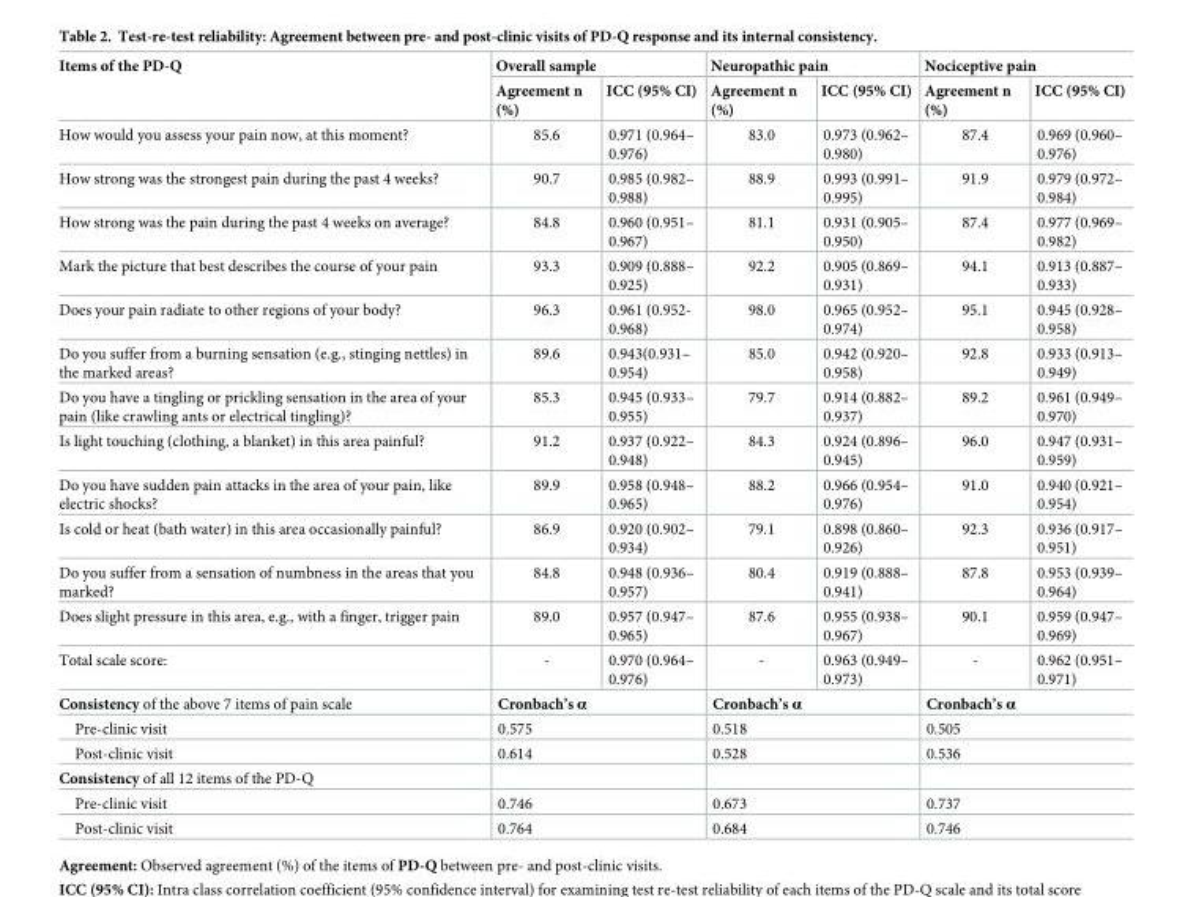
<table><thead><tr><td rowspan="2">Items of the PD-Q</td><td colspan="2">Overall sample</td><td colspan="2">Neuropathic pain</td><td colspan="2">Nociceptive pain</td></tr><tr><td>Agreement n (%)</td><td>ICC (95% CI)</td><td>Agreement n (%)</td><td>ICC (95% CI)</td><td>Agreement n (%)</td><td>ICC (95% CI)</td></tr></thead><tbody><tr><td>How would you assess your pain now, at this moment?</td><td>85.6</td><td>0.971 (0.964– 0.976)</td><td>83.0</td><td>0.973 (0.962– 0.980)</td><td>87.4</td><td>0.969 (0.960– 0.976)</td></tr><tr><td>How strong was the strongest pain during the past 4 weeks?</td><td>90.7</td><td>0.985 (0.982– 0.988)</td><td>88.9</td><td>0.993 (0.991– 0.995)</td><td>91.9</td><td>0.979 (0.972– 0.984)</td></tr><tr><td>How strong was the pain during the past 4 weeks on average?</td><td>84.8</td><td>0.960 (0.951– 0.967)</td><td>81.1</td><td>0.931 (0.905– 0.950)</td><td>87.4</td><td>0.977 (0.969– 0.982)</td></tr><tr><td>Mark the picture that best describes the course of your pain</td><td>93.3</td><td>0.909 (0.888– 0.925)</td><td>92.2</td><td>0.905 (0.869– 0.931)</td><td>94.1</td><td>0.913 (0.887– 0.933)</td></tr><tr><td>Does your pain radiate to other regions of your body?</td><td>96.3</td><td>0.961 (0.952- 0.968)</td><td>98.0</td><td>0.965 (0.952– 0.974)</td><td>95.1</td><td>0.945 (0.928– 0.958)</td></tr><tr><td>Do you suffer from a burning sensation (e.g., stinging nettles) in the marked areas?</td><td>89.6</td><td>0.943(0.931– 0.954)</td><td>85.0</td><td>0.942 (0.920– 0.958)</td><td>92.8</td><td>0.933 (0.913– 0.949)</td></tr><tr><td>Do you have a tingling or prickling sensation in the area of your pain (like crawling ants or electrical tingling)?</td><td>85.3</td><td>0.945 (0.933– 0.955)</td><td>79.7</td><td>0.914 (0.882– 0.937)</td><td>89.2</td><td>0.961 (0.949– 0.970)</td></tr><tr><td>Is light touching (clothing, a blanket) in this area painful?</td><td>91.2</td><td>0.937 (0.922– 0.948)</td><td>84.3</td><td>0.924 (0.896– 0.945)</td><td>96.0</td><td>0.947 (0.931– 0.959)</td></tr><tr><td>Do you have sudden pain attacks in the area of your pain, like electric shocks?</td><td>89.9</td><td>0.958 (0.948– 0.965)</td><td>88.2</td><td>0.966 (0.954– 0.976)</td><td>91.0</td><td>0.940 (0.921– 0.954)</td></tr><tr><td>Is cold or heat (bath water) in this area occasionally painful?</td><td>86.9</td><td>0.920 (0.902– 0.934)</td><td>79.1</td><td>0.898 (0.860– 0.926)</td><td>92.3</td><td>0.936 (0.917– 0.951)</td></tr><tr><td>Do you suffer from a sensation of numbness in the areas that you marked?</td><td>84.8</td><td>0.948 (0.936– 0.957)</td><td>80.4</td><td>0.919 (0.888– 0.941)</td><td>87.8</td><td>0.953 (0.939– 0.964)</td></tr><tr><td>Does slight pressure in this area, e.g., with a finger, trigger pain</td><td>89.0</td><td>0.957 (0.947– 0.965)</td><td>87.6</td><td>0.955 (0.938– 0.967)</td><td>90.1</td><td>0.959 (0.947– 0.969)</td></tr><tr><td>Total scale score:</td><td>-</td><td>0.970 (0.964– 0.976)</td><td>-</td><td>0.963 (0.949– 0.973)</td><td>-</td><td>0.962 (0.951– 0.971)</td></tr><tr><td>Consistency of the above 7 items of pain scale</td><td colspan="2">Cronbach’s α</td><td colspan="2">Cronbach’s α</td><td colspan="2">Cronbach’s α</td></tr><tr><td>Pre-clinic visit</td><td colspan="2">0.575</td><td colspan="2">0.518</td><td colspan="2">0.505</td></tr><tr><td>Post-clinic visit</td><td colspan="2">0.614</td><td colspan="2">0.528</td><td colspan="2">0.536</td></tr><tr><td colspan="7">Consistency of all 12 items of the PD-Q</td></tr><tr><td>Pre-clinic visit</td><td colspan="2">0.746</td><td colspan="2">0.673</td><td colspan="2">0.737</td></tr><tr><td>Post-clinic visit</td><td colspan="2">0.764</td><td colspan="2">0.684</td><td colspan="2">0.746</td></tr></tbody></table>